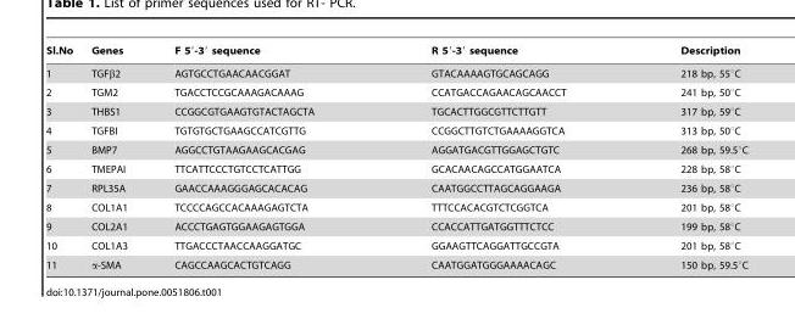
<table><thead><tr><td>Sl.No</td><td>Genes</td><td>F 5′-3′ sequence</td><td>R 5′-3′ sequence</td><td>Description</td></tr></thead><tbody><tr><td>1</td><td>TGFβ2</td><td>AGTGCCTGAACAACGGAT</td><td>GTACAAAAGTGCAGCAGG</td><td>218 bp, 55°C</td></tr><tr><td>2</td><td>TGM2</td><td>TGACCTCCGCAAAGACAAAG</td><td>CCATGACCAGAACAGCAACCT</td><td>241 bp, 50°C</td></tr><tr><td>3</td><td>THBS1</td><td>CCGGCGTGAAGTGTACTAGCTA</td><td>TGCACTTGGCGTTCTTGTT</td><td>317 bp, 59°C</td></tr><tr><td>4</td><td>TGFBI</td><td>TGTGTGCTGAAGCCATCGTTG</td><td>CCGGCTTGTCTGAAAAGGTCA</td><td>313 bp, 50°C</td></tr><tr><td>5</td><td>BMP7</td><td>AGGCCTGTAAGAAGCACGAG</td><td>AGGATGACGTTGGAGCTGTC</td><td>268 bp, 59.5°C</td></tr><tr><td>6</td><td>TMEPAI</td><td>TTCATTCCCTGTCCTCATTGG</td><td>GCACAACAGCCATGGAATCA</td><td>228 bp, 58°C</td></tr><tr><td>7</td><td>RPL35A</td><td>GAACCAAAGGGAGCACACAG</td><td>CAATGGCCTTAGCAGGAAGA</td><td>236 bp, 58°C</td></tr><tr><td>8</td><td>COL1A1</td><td>TCCCCAGCCACAAAGAGTCTA</td><td>TTTCCACACGTCTCGGTCA</td><td>201 bp, 58°C</td></tr><tr><td>9</td><td>COL2A1</td><td>ACCCTGAGTGGAAGAGTGGA</td><td>CCACCATTGATGGTTTCTCC</td><td>199 bp, 58°C</td></tr><tr><td>10</td><td>COL1A3</td><td>TTGACCCTAACCAAGGATGC</td><td>GGAAGTTCAGGATTGCCGTA</td><td>201 bp, 58°C</td></tr><tr><td>11</td><td>α-SMA</td><td>CAGCCAAGCACTGTCAGG</td><td>CAATGGATGGGAAAACAGC</td><td>150 bp, 59.5°C</td></tr></tbody></table>